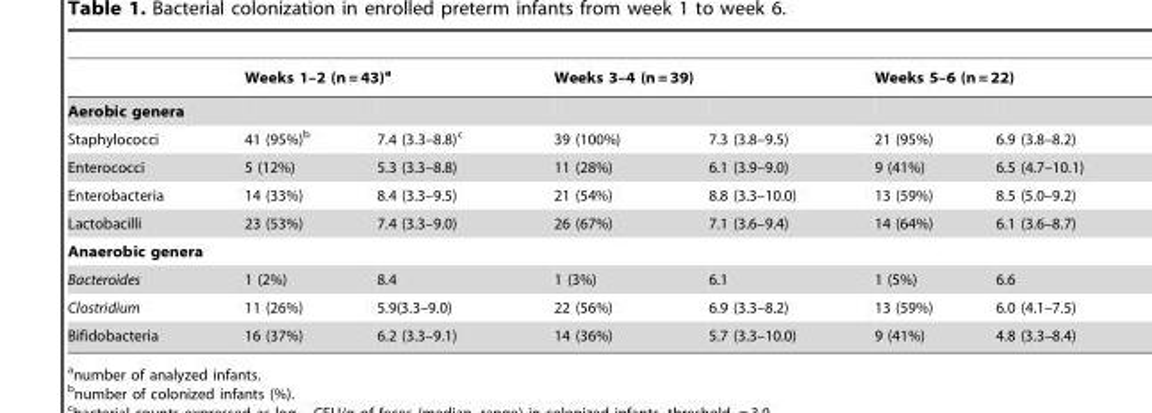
<table><thead><tr><td rowspan="2">Aerobic genera</td><td colspan="2">Weeks 1–2 (n = 43)<sup>a</sup></td><td colspan="2">Weeks 3–4 (n = 39)</td><td colspan="2">Weeks 5–6 (n = 22)</td></tr><tr><td></td><td></td><td></td><td></td><td></td><td></td></tr></thead><tbody><tr><td>Staphylococci</td><td>41 (95%)<sup>b</sup></td><td>7.4 (3.3–8.8)<sup>c</sup></td><td>39 (100%)</td><td>7.3 (3.8–9.5)</td><td>21 (95%)</td><td>6.9 (3.8–8.2)</td></tr><tr><td>Enterococci</td><td>5 (12%)</td><td>5.3 (3.3–8.8)</td><td>11 (28%)</td><td>6.1 (3.9–9.0)</td><td>9 (41%)</td><td>6.5 (4.7–10.1)</td></tr><tr><td>Enterobacteria</td><td>14 (33%)</td><td>8.4 (3.3–9.5)</td><td>21 (54%)</td><td>8.8 (3.3–10.0)</td><td>13 (59%)</td><td>8.5 (5.0–9.2)</td></tr><tr><td>Lactobacilli</td><td>23 (53%)</td><td>7.4 (3.3–9.0)</td><td>26 (67%)</td><td>7.1 (3.6–9.4)</td><td>14 (64%)</td><td>6.1 (3.6–8.7)</td></tr><tr><td colspan="7">Anaerobic genera</td></tr><tr><td>Bacteroides</td><td>1 (2%)</td><td>8.4</td><td>1 (3%)</td><td>6.1</td><td>1 (5%)</td><td>6.6</td></tr><tr><td>Clostridium</td><td>11 (26%)</td><td>5.9(3.3–9.0)</td><td>22 (56%)</td><td>6.9 (3.3–8.2)</td><td>13 (59%)</td><td>6.0 (4.1–7.5)</td></tr><tr><td>Bifidobacteria</td><td>16 (37%)</td><td>6.2 (3.3–9.1)</td><td>14 (36%)</td><td>5.7 (3.3–10.0)</td><td>9 (41%)</td><td>4.8 (3.3–8.4)</td></tr></tbody></table>